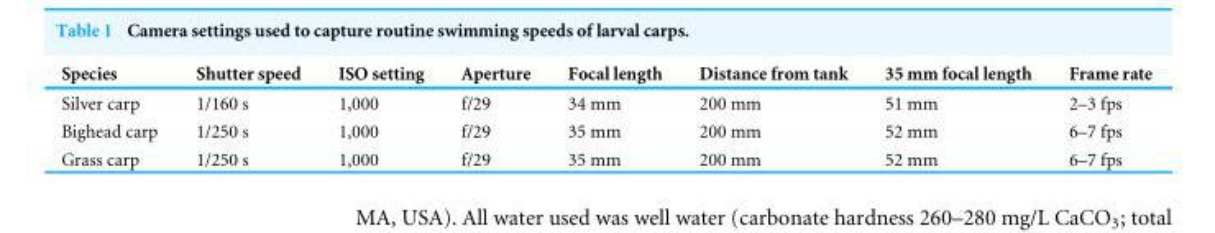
<table><thead><tr><td>Species</td><td>Shutter speed</td><td>ISO setting</td><td>Aperture</td><td>Focal length</td><td>Distance from tank</td><td>35 mm focal length</td><td>Frame rate</td></tr></thead><tbody><tr><td>Silver carp</td><td>1/160 s</td><td>1,000</td><td>f/29</td><td>34 mm</td><td>200 mm</td><td>51 mm</td><td>2–3 fps</td></tr><tr><td>Bighead carp</td><td>1/250 s</td><td>1,000</td><td>f/29</td><td>35 mm</td><td>200 mm</td><td>52 mm</td><td>6–7 fps</td></tr><tr><td>Grass carp</td><td>1/250 s</td><td>1,000</td><td>f/29</td><td>35 mm</td><td>200 mm</td><td>52 mm</td><td>6–7 fps</td></tr></tbody></table>